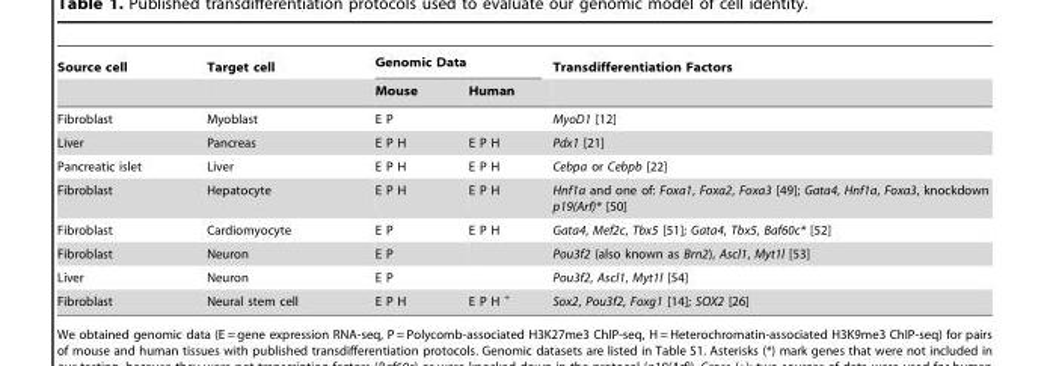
<table><thead><tr><td rowspan="2">Source cell</td><td rowspan="2">Target cell</td><td colspan="2">Genomic Data</td><td rowspan="2">Transdifferentiation Factors</td></tr><tr><td>Mouse</td><td>Human</td></tr></thead><tbody><tr><td>Fibroblast</td><td>Myoblast</td><td>E P</td><td></td><td>MyoD1 [12]</td></tr><tr><td>Liver</td><td>Pancreas</td><td>E P H</td><td>E P H</td><td>Pdx1 [21]</td></tr><tr><td>Pancreatic islet</td><td>Liver</td><td>E P H</td><td>E P H</td><td>Cebpa or Cebpb [22]</td></tr><tr><td>Fibroblast</td><td>Hepatocyte</td><td>E P H</td><td>E P H</td><td>Hnf1a and one of: Foxa1, Foxa2, Foxa3 [49]; Gata4, Hnf1a, Foxa3, knockdown p19(Arf)* [50]</td></tr><tr><td>Fibroblast</td><td>Cardiomyocyte</td><td>E P</td><td>E P H</td><td>Gata4, Mef2c, Tbx5 [51]; Gata4, Tbx5, Baf60c* [52]</td></tr><tr><td>Fibroblast</td><td>Neuron</td><td>E P</td><td></td><td>Pou3f2 (also known as Brn2), Ascl1, Myt1l [53]</td></tr><tr><td>Liver</td><td>Neuron</td><td>E P</td><td></td><td>Pou3f2, Ascl1, Myt1l [54]</td></tr><tr><td>Fibroblast</td><td>Neural stem cell</td><td>E P H</td><td>E P H <sup>+</sup></td><td>Sox2, Pou3f2, Foxg1 [14]; SOX2 [26]</td></tr></tbody></table>